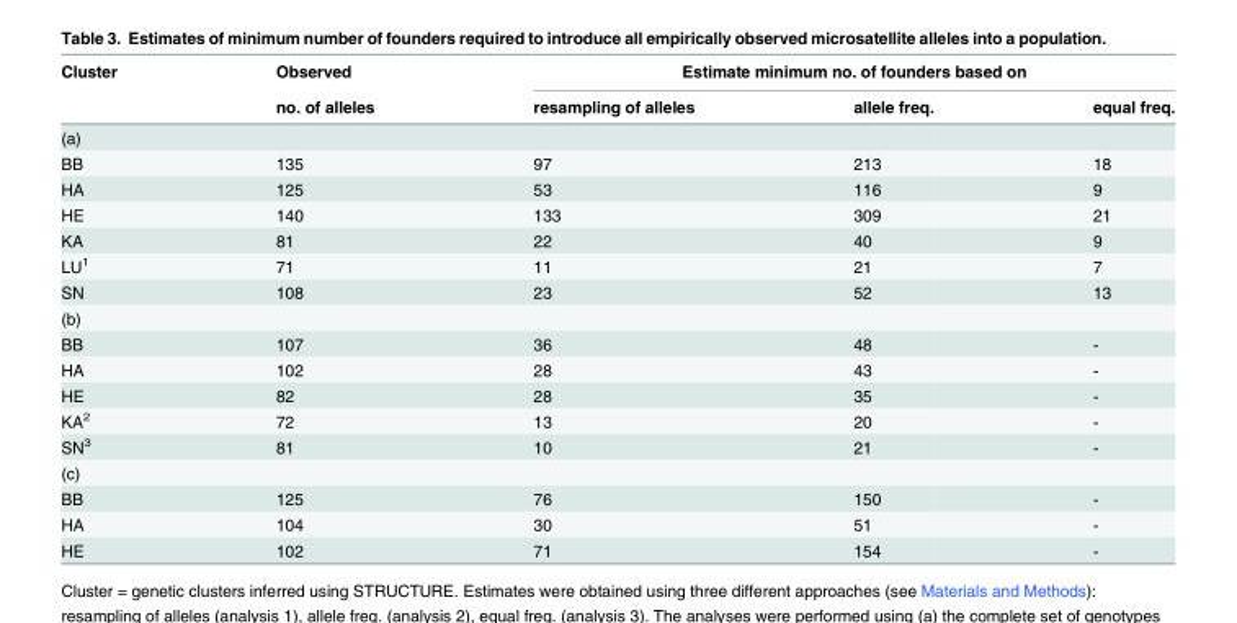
<table><thead><tr><td rowspan="2">Cluster</td><td rowspan="2">Observed no. of alleles</td><td colspan="3">Estimate minimum no. of founders based on</td></tr><tr><td>resampling of alleles</td><td>allele freq.</td><td>equal freq.</td></tr></thead><tbody><tr><td colspan="5">(a)</td></tr><tr><td>BB</td><td>135</td><td>97</td><td>213</td><td>18</td></tr><tr><td>HA</td><td>125</td><td>53</td><td>116</td><td>9</td></tr><tr><td>HE</td><td>140</td><td>133</td><td>309</td><td>21</td></tr><tr><td>KA</td><td>81</td><td>22</td><td>40</td><td>9</td></tr><tr><td>LU<sup>1</sup></td><td>71</td><td>11</td><td>21</td><td>7</td></tr><tr><td>SN</td><td>108</td><td>23</td><td>52</td><td>13</td></tr><tr><td colspan="5">(b)</td></tr><tr><td>BB</td><td>107</td><td>36</td><td>48</td><td>-</td></tr><tr><td>HA</td><td>102</td><td>28</td><td>43</td><td>-</td></tr><tr><td>HE</td><td>82</td><td>28</td><td>35</td><td>-</td></tr><tr><td>KA<sup>2</sup></td><td>72</td><td>13</td><td>20</td><td>-</td></tr><tr><td>SN<sup>3</sup></td><td>81</td><td>10</td><td>21</td><td>-</td></tr><tr><td colspan="5">(c)</td></tr><tr><td>BB</td><td>125</td><td>76</td><td>150</td><td>-</td></tr><tr><td>HA</td><td>104</td><td>30</td><td>51</td><td>-</td></tr><tr><td>HE</td><td>102</td><td>71</td><td>154</td><td>-</td></tr></tbody></table>